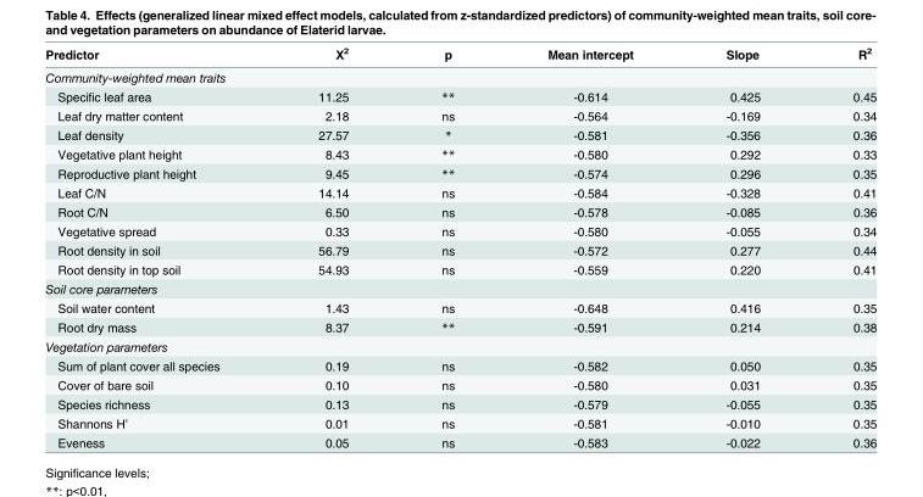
<table><thead><tr><td>Predictor</td><td>Χ<sup>2</sup></td><td>p</td><td>Mean intercept</td><td>Slope</td><td>R<sup>2</sup></td></tr></thead><tbody><tr><td colspan="6">Community-weighted mean traits</td></tr><tr><td>Specific leaf area</td><td>11.25</td><td>**</td><td>-0.614</td><td>0.425</td><td>0.45</td></tr><tr><td>Leaf dry matter content</td><td>2.18</td><td>ns</td><td>-0.564</td><td>-0.169</td><td>0.34</td></tr><tr><td>Leaf density</td><td>27.57</td><td>*</td><td>-0.581</td><td>-0.356</td><td>0.36</td></tr><tr><td>Vegetative plant height</td><td>8.43</td><td>**</td><td>-0.580</td><td>0.292</td><td>0.33</td></tr><tr><td>Reproductive plant height</td><td>9.45</td><td>**</td><td>-0.574</td><td>0.296</td><td>0.35</td></tr><tr><td>Leaf C/N</td><td>14.14</td><td>ns</td><td>-0.584</td><td>-0.328</td><td>0.41</td></tr><tr><td>Root C/N</td><td>6.50</td><td>ns</td><td>-0.578</td><td>-0.085</td><td>0.36</td></tr><tr><td>Vegetative spread</td><td>0.33</td><td>ns</td><td>-0.580</td><td>-0.055</td><td>0.34</td></tr><tr><td>Root density in soil</td><td>56.79</td><td>ns</td><td>-0.572</td><td>0.277</td><td>0.44</td></tr><tr><td>Root density in top soil</td><td>54.93</td><td>ns</td><td>-0.559</td><td>0.220</td><td>0.41</td></tr><tr><td colspan="6">Soil core parameters</td></tr><tr><td>Soil water content</td><td>1.43</td><td>ns</td><td>-0.648</td><td>0.416</td><td>0.35</td></tr><tr><td>Root dry mass</td><td>8.37</td><td>**</td><td>-0.591</td><td>0.214</td><td>0.38</td></tr><tr><td colspan="6">Vegetation parameters</td></tr><tr><td>Sum of plant cover all species</td><td>0.19</td><td>ns</td><td>-0.582</td><td>0.050</td><td>0.35</td></tr><tr><td>Cover of bare soil</td><td>0.10</td><td>ns</td><td>-0.580</td><td>0.031</td><td>0.35</td></tr><tr><td>Species richness</td><td>0.13</td><td>ns</td><td>-0.579</td><td>-0.055</td><td>0.35</td></tr><tr><td>Shannons H’</td><td>0.01</td><td>ns</td><td>-0.581</td><td>-0.010</td><td>0.35</td></tr><tr><td>Eveness</td><td>0.05</td><td>ns</td><td>-0.583</td><td>-0.022</td><td>0.36</td></tr></tbody></table>